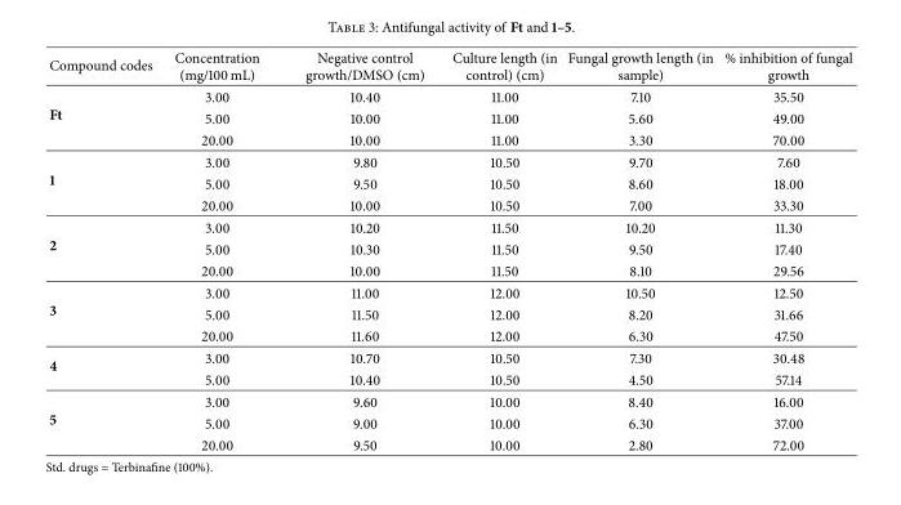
<table><thead><tr><td>Compound codes</td><td>Concentration (mg/100 mL)</td><td>Negative control growth/DMSO (cm)</td><td>Culture length (in control) (cm)</td><td>Fungal growth length (in sample)</td><td>% inhibition of fungal growth</td></tr></thead><tbody><tr><td rowspan="3">Ft</td><td>3.00</td><td>10.40</td><td>11.00</td><td>7.10</td><td>35.50</td></tr><tr><td>5.00</td><td>10.00</td><td>11.00</td><td>5.60</td><td>49.00</td></tr><tr><td>20.00</td><td>10.00</td><td>11.00</td><td>3.30</td><td>70.00</td></tr><tr><td rowspan="3">1</td><td>3.00</td><td>9.80</td><td>10.50</td><td>9.70</td><td>7.60</td></tr><tr><td>5.00</td><td>9.50</td><td>10.50</td><td>8.60</td><td>18.00</td></tr><tr><td>20.00</td><td>10.00</td><td>10.50</td><td>7.00</td><td>33.30</td></tr><tr><td rowspan="3">2</td><td>3.00</td><td>10.20</td><td>11.50</td><td>10.20</td><td>11.30</td></tr><tr><td>5.00</td><td>10.30</td><td>11.50</td><td>9.50</td><td>17.40</td></tr><tr><td>20.00</td><td>10.00</td><td>11.50</td><td>8.10</td><td>29.56</td></tr><tr><td rowspan="3">3</td><td>3.00</td><td>11.00</td><td>12.00</td><td>10.50</td><td>12.50</td></tr><tr><td>5.00</td><td>11.50</td><td>12.00</td><td>8.20</td><td>31.66</td></tr><tr><td>20.00</td><td>11.60</td><td>12.00</td><td>6.30</td><td>47.50</td></tr><tr><td rowspan="2">4</td><td>3.00</td><td>10.70</td><td>10.50</td><td>7.30</td><td>30.48</td></tr><tr><td>5.00</td><td>10.40</td><td>10.50</td><td>4.50</td><td>57.14</td></tr><tr><td rowspan="3">5</td><td>3.00</td><td>9.60</td><td>10.00</td><td>8.40</td><td>16.00</td></tr><tr><td>5.00</td><td>9.00</td><td>10.00</td><td>6.30</td><td>37.00</td></tr><tr><td>20.00</td><td>9.50</td><td>10.00</td><td>2.80</td><td>72.00</td></tr></tbody></table>